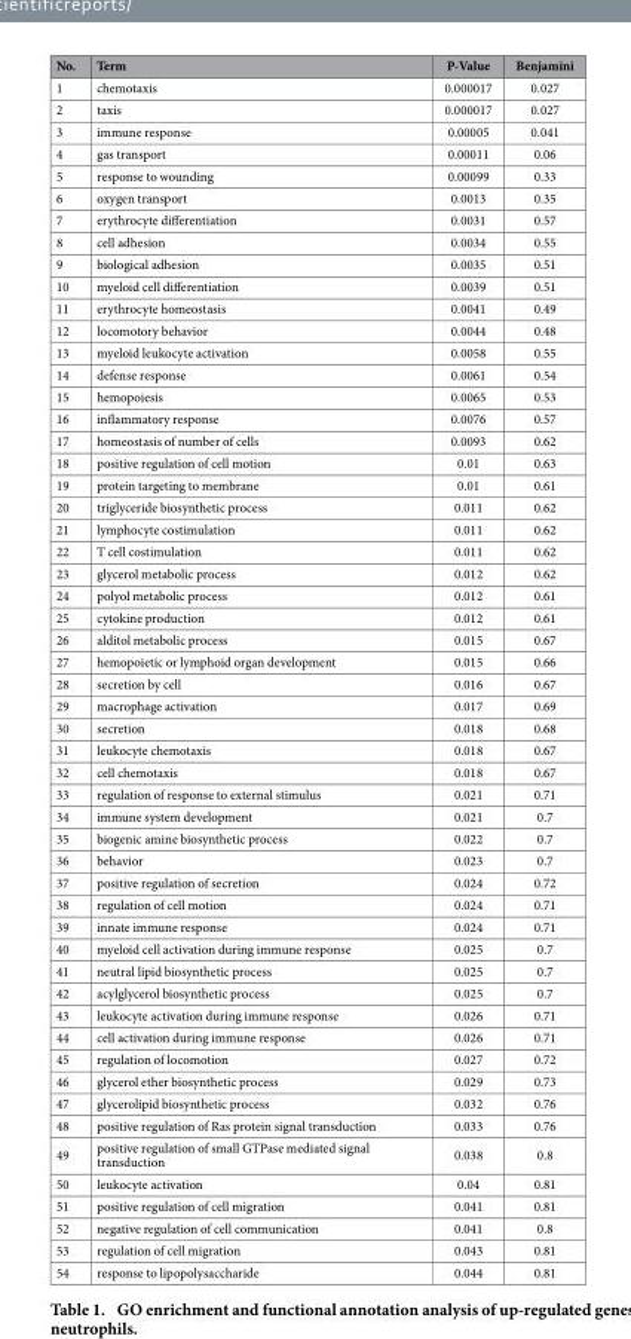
<table><thead><tr><td>No.</td><td>Term</td><td>P-Value</td><td>Benjamini</td></tr></thead><tbody><tr><td>1</td><td>chemotaxis</td><td>0.000017</td><td>0.027</td></tr><tr><td>2</td><td>taxis</td><td>0.000017</td><td>0.027</td></tr><tr><td>3</td><td>immune response</td><td>0.00005</td><td>0.041</td></tr><tr><td>4</td><td>gas transport</td><td>0.00011</td><td>0.06</td></tr><tr><td>5</td><td>response to wounding</td><td>0.00099</td><td>0.33</td></tr><tr><td>6</td><td>oxygen transport</td><td>0.0013</td><td>0.35</td></tr><tr><td>7</td><td>erythrocyte differentiation</td><td>0.0031</td><td>0.57</td></tr><tr><td>8</td><td>cell adhesion</td><td>0.0034</td><td>0.55</td></tr><tr><td>9</td><td>biological adhesion</td><td>0.0035</td><td>0.51</td></tr><tr><td>10</td><td>myeloid cell differentiation</td><td>0.0039</td><td>0.51</td></tr><tr><td>11</td><td>erythrocyte homeostasis</td><td>0.0041</td><td>0.49</td></tr><tr><td>12</td><td>locomotory behavior</td><td>0.0044</td><td>0.48</td></tr><tr><td>13</td><td>myeloid leukocyte activation</td><td>0.0058</td><td>0.55</td></tr><tr><td>14</td><td>defense response</td><td>0.0061</td><td>0.54</td></tr><tr><td>15</td><td>hemopoiesis</td><td>0.0065</td><td>0.53</td></tr><tr><td>16</td><td>inflammatory response</td><td>0.0076</td><td>0.57</td></tr><tr><td>17</td><td>homeostasis of number of cells</td><td>0.0093</td><td>0.62</td></tr><tr><td>18</td><td>positive regulation of cell motion</td><td>0.01</td><td>0.63</td></tr><tr><td>19</td><td>protein targeting to membrane</td><td>0.01</td><td>0.61</td></tr><tr><td>20</td><td>triglyceride biosynthetic process</td><td>0.011</td><td>0.62</td></tr><tr><td>21</td><td>lymphocyte costimulation</td><td>0.011</td><td>0.62</td></tr><tr><td>22</td><td>T cell costimulation</td><td>0.011</td><td>0.62</td></tr><tr><td>23</td><td>glycerol metabolic process</td><td>0.012</td><td>0.62</td></tr><tr><td>24</td><td>polyol metabolic process</td><td>0.012</td><td>0.61</td></tr><tr><td>25</td><td>cytokine production</td><td>0.012</td><td>0.61</td></tr><tr><td>26</td><td>alditol metabolic process</td><td>0.015</td><td>0.67</td></tr><tr><td>27</td><td>hemopoietic or lymphoid organ development</td><td>0.015</td><td>0.66</td></tr><tr><td>28</td><td>secretion by cell</td><td>0.016</td><td>0.67</td></tr><tr><td>29</td><td>macrophage activation</td><td>0.017</td><td>0.69</td></tr><tr><td>30</td><td>secretion</td><td>0.018</td><td>0.68</td></tr><tr><td>31</td><td>leukocyte chemotaxis</td><td>0.018</td><td>0.67</td></tr><tr><td>32</td><td>cell chemotaxis</td><td>0.018</td><td>0.67</td></tr><tr><td>33</td><td>regulation of response to external stimulus</td><td>0.021</td><td>0.71</td></tr><tr><td>34</td><td>immune system development</td><td>0.021</td><td>0.7</td></tr><tr><td>35</td><td>biogenic amine biosynthetic process</td><td>0.022</td><td>0.7</td></tr><tr><td>36</td><td>behavior</td><td>0.023</td><td>0.7</td></tr><tr><td>37</td><td>positive regulation of secretion</td><td>0.024</td><td>0.72</td></tr><tr><td>38</td><td>regulation of cell motion</td><td>0.024</td><td>0.71</td></tr><tr><td>39</td><td>innate immune response</td><td>0.024</td><td>0.71</td></tr><tr><td>40</td><td>myeloid cell activation during immune response</td><td>0.025</td><td>0.7</td></tr><tr><td>41</td><td>neutral lipid biosynthetic process</td><td>0.025</td><td>0.7</td></tr><tr><td>42</td><td>acylglycerol biosynthetic process</td><td>0.025</td><td>0.7</td></tr><tr><td>43</td><td>leukocyte activation during immune response</td><td>0.026</td><td>0.71</td></tr><tr><td>44</td><td>cell activation during immune response</td><td>0.026</td><td>0.71</td></tr><tr><td>45</td><td>regulation of locomotion</td><td>0.027</td><td>0.72</td></tr><tr><td>46</td><td>glycerol ether biosynthetic process</td><td>0.029</td><td>0.73</td></tr><tr><td>47</td><td>glycerolipid biosynthetic process</td><td>0.032</td><td>0.76</td></tr><tr><td>48</td><td>positive regulation of Ras protein signal transduction</td><td>0.033</td><td>0.76</td></tr><tr><td>49</td><td>positive regulation of small GTPase mediated signal transduction</td><td>0.038</td><td>0.8</td></tr><tr><td>50</td><td>leukocyte activation</td><td>0.04</td><td>0.81</td></tr><tr><td>51</td><td>positive regulation of cell migration</td><td>0.041</td><td>0.81</td></tr><tr><td>52</td><td>negative regulation of cell communication</td><td>0.041</td><td>0.8</td></tr><tr><td>53</td><td>regulation of cell migration</td><td>0.043</td><td>0.81</td></tr><tr><td>54</td><td>response to lipopolysaccharide</td><td>0.044</td><td>0.81</td></tr></tbody></table>